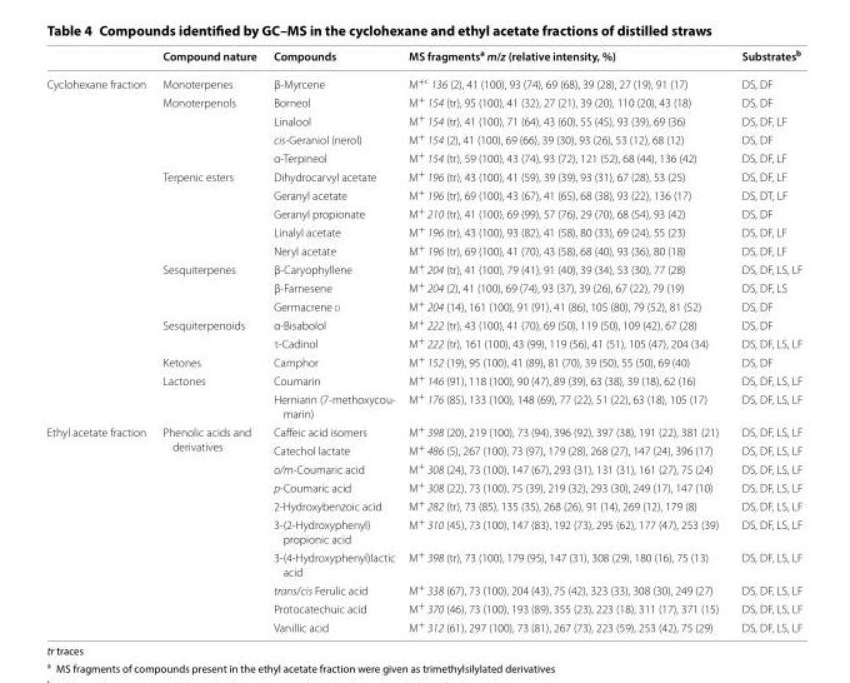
<table><thead><tr><td></td><td>Compound nature</td><td>Compounds</td><td>MS fragments<sup>a</sup> m/z (relative intensity, %)</td><td>Substrates<sup>b</sup></td></tr></thead><tbody><tr><td rowspan="18">Cyclohexane fraction</td><td>Monoterpenes</td><td>β‑Myrcene</td><td>M<sup>+c</sup> 136 (2), 41 (100), 93 (74), 69 (68), 39 (28), 27 (19), 91 (17)</td><td>DS, DF</td></tr><tr><td rowspan="4">Monoterpenols</td><td>Borneol</td><td>M<sup>+</sup> 154 (tr), 95 (100), 41 (32), 27 (21), 39 (20), 110 (20), 43 (18)</td><td>DS, DF</td></tr><tr><td>Linalool</td><td>M<sup>+</sup> 154 (tr), 41 (100), 71 (64), 43 (60), 55 (45), 93 (39), 69 (36)</td><td>DS, DF, LF</td></tr><tr><td>cis‑Geraniol (nerol)</td><td>M<sup>+</sup> 154 (2), 41 (100), 69 (66), 39 (30), 93 (26), 53 (12), 68 (12)</td><td>DS, DF</td></tr><tr><td>α‑Terpineol</td><td>M<sup>+</sup> 154 (tr), 59 (100), 43 (74), 93 (72), 121 (52), 68 (44), 136 (42)</td><td>DS, DF, LF</td></tr><tr><td rowspan="5">Terpenic esters</td><td>Dihydrocarvyl acetate</td><td>M<sup>+</sup> 196 (tr), 43 (100), 41 (59), 39 (39), 93 (31), 67 (28), 53 (25)</td><td>DS, DF, LF</td></tr><tr><td>Geranyl acetate</td><td>M<sup>+</sup> 196 (tr), 69 (100), 43 (67), 41 (65), 68 (38), 93 (22), 136 (17)</td><td>DS, DT, LF</td></tr><tr><td>Geranyl propionate</td><td>M<sup>+</sup> 210 (tr), 41 (100), 69 (99), 57 (76), 29 (70), 68 (54), 93 (42)</td><td>DS, DF</td></tr><tr><td>Linalyl acetate</td><td>M<sup>+</sup> 196 (tr), 43 (100), 93 (82), 41 (58), 80 (33), 69 (24), 55 (23)</td><td>DS, DF, LF</td></tr><tr><td>Neryl acetate</td><td>M<sup>+</sup> 196 (tr), 69 (100), 41 (70), 43 (58), 68 (40), 93 (36), 80 (18)</td><td>DS, DF, LF</td></tr><tr><td rowspan="3">Sesquiterpenes</td><td>β‑Caryophyllene</td><td>M<sup>+</sup> 204 (tr), 41 (100), 79 (41), 91 (40), 39 (34), 53 (30), 77 (28)</td><td>DS, DF, LS, LF</td></tr><tr><td>β‑Farnesene</td><td>M<sup>+</sup> 204 (2), 41 (100), 69 (74), 93 (37), 39 (26), 67 (22), 79 (19)</td><td>DS, DF, LS</td></tr><tr><td>Germacrene d</td><td>M<sup>+</sup> 204 (14), 161 (100), 91 (91), 41 (86), 105 (80), 79 (52), 81 (52)</td><td>DS, DF</td></tr><tr><td rowspan="2">Sesquiterpenoids</td><td>α‑Bisabolol</td><td>M<sup>+</sup> 222 (tr), 43 (100), 41 (70), 69 (50), 119 (50), 109 (42), 67 (28)</td><td>DS, DF</td></tr><tr><td>τ‑Cadinol</td><td>M<sup>+</sup> 222 (tr), 161 (100), 43 (99), 119 (56), 41 (51), 105 (47), 204 (34)</td><td>DS, DF, LS, LF</td></tr><tr><td>Ketones</td><td>Camphor</td><td>M<sup>+</sup> 152 (19), 95 (100), 41 (89), 81 (70), 39 (50), 55 (50), 69 (40)</td><td>DS, DF</td></tr><tr><td rowspan="2">Lactones</td><td>Coumarin</td><td>M<sup>+</sup> 146 (91), 118 (100), 90 (47), 89 (39), 63 (38), 39 (18), 62 (16)</td><td>DS, DF, LS, LF</td></tr><tr><td>Herniarin (7‑methoxycou‑ marin)</td><td>M<sup>+</sup> 176 (85), 133 (100), 148 (69), 77 (22), 51 (22), 63 (18), 105 (17)</td><td>DS, DF, LS, LF</td></tr><tr><td rowspan="10">Ethyl acetate fraction</td><td rowspan="10">Phenolic acids and derivatives</td><td>Caffeic acid isomers</td><td>M<sup>+</sup> 398 (20), 219 (100), 73 (94), 396 (92), 397 (38), 191 (22), 381 (21)</td><td>DS, DF, LS, LF</td></tr><tr><td>Catechol lactate</td><td>M<sup>+</sup> 486 (5), 267 (100), 73 (97), 179 (28), 268 (27), 147 (24), 396 (17)</td><td>DS, DF, LS, LF</td></tr><tr><td>o/m‑Coumaric acid</td><td>M<sup>+</sup> 308 (24), 73 (100), 147 (67), 293 (31), 131 (31), 161 (27), 75 (24)</td><td>DS, DF, LS, LF</td></tr><tr><td>p‑Coumaric acid</td><td>M<sup>+</sup> 308 (22), 73 (100), 75 (39), 219 (32), 293 (30), 249 (17), 147 (10)</td><td>DS, DF, LS, LF</td></tr><tr><td>2‑Hydroxybenzoic acid</td><td>M<sup>+</sup> 282 (tr), 73 (85), 135 (35), 268 (26), 91 (14), 269 (12), 179 (8)</td><td>DS, DF, LS, LF</td></tr><tr><td>3‑(2‑Hydroxyphenyl) propionic acid</td><td>M<sup>+</sup> 310 (45), 73 (100), 147 (83), 192 (73), 295 (62), 177 (47), 253 (39)</td><td>DS, DF, LS, LF</td></tr><tr><td>3‑(4‑Hydroxyphenyl)lactic acid</td><td>M<sup>+</sup> 398 (tr), 73 (100), 179 (95), 147 (31), 308 (29), 180 (16), 75 (13)</td><td>DS, DF, LS, LF</td></tr><tr><td>trans/cis Ferulic acid</td><td>M<sup>+</sup> 338 (67), 73 (100), 204 (43), 75 (42), 323 (33), 308 (30), 249 (27)</td><td>DS, DF, LS, LF</td></tr><tr><td>Protocatechuic acid</td><td>M<sup>+</sup> 370 (46), 73 (100), 193 (89), 355 (23), 223 (18), 311 (17), 371 (15)</td><td>DS, DF, LS, LF</td></tr><tr><td>Vanillic acid</td><td>M<sup>+</sup> 312 (61), 297 (100), 73 (81), 267 (73), 223 (59), 253 (42), 75 (29)</td><td>DS, DF, LS, LF</td></tr></tbody></table>